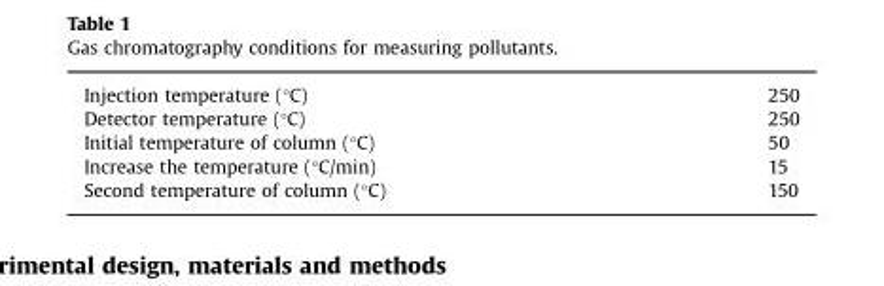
<table><tbody><tr><td>Injection temperature (°C)</td><td>250</td></tr><tr><td>Detector temperature (°C)</td><td>250</td></tr><tr><td>Initial temperature of column (°C)</td><td>50</td></tr><tr><td>Increase the temperature (°C/min)</td><td>15</td></tr><tr><td>Second temperature of column (°C)</td><td>150</td></tr></tbody></table>